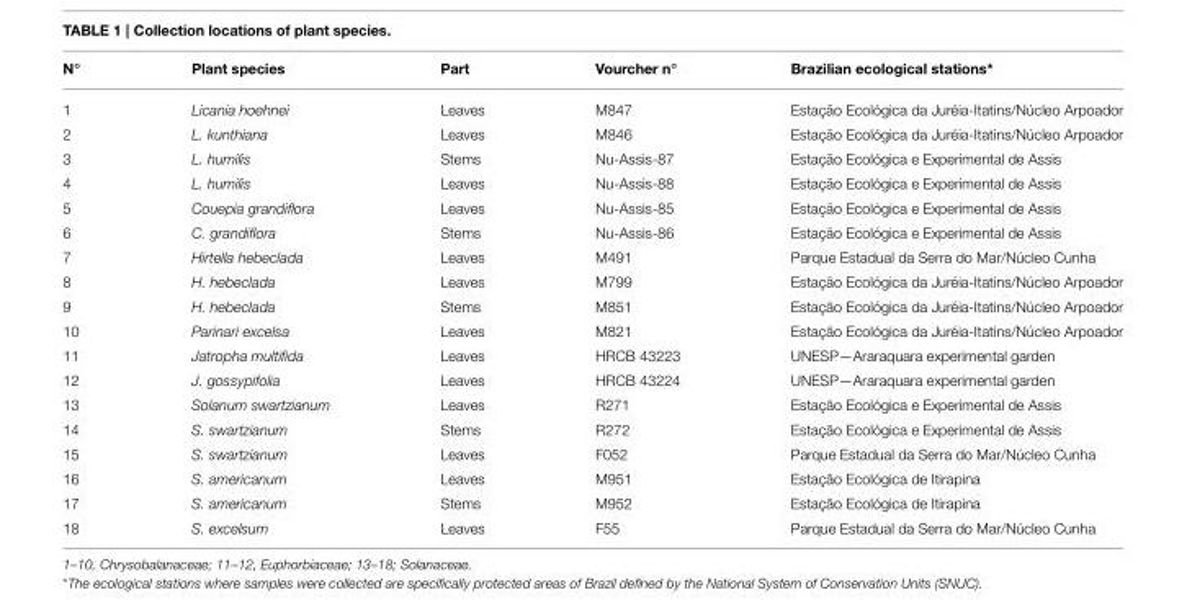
<table><thead><tr><td>N◦</td><td>Plant species</td><td>Part</td><td>Vourcher n◦</td><td>Brazilian ecological stations*</td></tr></thead><tbody><tr><td>1</td><td>Licania hoehnei</td><td>Leaves</td><td>M847</td><td>Estação Ecológica da Juréia-Itatins/Núcleo Arpoador</td></tr><tr><td>2</td><td>L. kunthiana</td><td>Leaves</td><td>M846</td><td>Estação Ecológica da Juréia-Itatins/Núcleo Arpoador</td></tr><tr><td>3</td><td>L. humilis</td><td>Stems</td><td>Nu-Assis-87</td><td>Estação Ecológica e Experimental de Assis</td></tr><tr><td>4</td><td>L. humilis</td><td>Leaves</td><td>Nu-Assis-88</td><td>Estação Ecológica e Experimental de Assis</td></tr><tr><td>5</td><td>Couepia grandiflora</td><td>Leaves</td><td>Nu-Assis-85</td><td>Estação Ecológica e Experimental de Assis</td></tr><tr><td>6</td><td>C. grandiflora</td><td>Stems</td><td>Nu-Assis-86</td><td>Estação Ecológica e Experimental de Assis</td></tr><tr><td>7</td><td>Hirtella hebeclada</td><td>Leaves</td><td>M491</td><td>Parque Estadual da Serra do Mar/Núcleo Cunha</td></tr><tr><td>8</td><td>H. hebeclada</td><td>Leaves</td><td>M799</td><td>Estação Ecológica da Juréia-Itatins/Núcleo Arpoador</td></tr><tr><td>9</td><td>H. hebeclada</td><td>Stems</td><td>M851</td><td>Estação Ecológica da Juréia-Itatins/Núcleo Arpoador</td></tr><tr><td>10</td><td>Parinari excelsa</td><td>Leaves</td><td>M821</td><td>Estação Ecológica da Juréia-Itatins/Núcleo Arpoador</td></tr><tr><td>11</td><td>Jatropha multifida</td><td>Leaves</td><td>HRCB 43223</td><td>UNESP—Araraquara experimental garden</td></tr><tr><td>12</td><td>J. gossypifolia</td><td>Leaves</td><td>HRCB 43224</td><td>UNESP—Araraquara experimental garden</td></tr><tr><td>13</td><td>Solanum swartzianum</td><td>Leaves</td><td>R271</td><td>Estação Ecológica e Experimental de Assis</td></tr><tr><td>14</td><td>S. swartzianum</td><td>Stems</td><td>R272</td><td>Estação Ecológica e Experimental de Assis</td></tr><tr><td>15</td><td>S. swartzianum</td><td>Leaves</td><td>F052</td><td>Parque Estadual da Serra do Mar/Núcleo Cunha</td></tr><tr><td>16</td><td>S. americanum</td><td>Leaves</td><td>M951</td><td>Estação Ecológica de Itirapina</td></tr><tr><td>17</td><td>S. americanum</td><td>Stems</td><td>M952</td><td>Estação Ecológica de Itirapina</td></tr><tr><td>18</td><td>S. excelsum</td><td>Leaves</td><td>F55</td><td>Parque Estadual da Serra do Mar/Núcleo Cunha</td></tr></tbody></table>